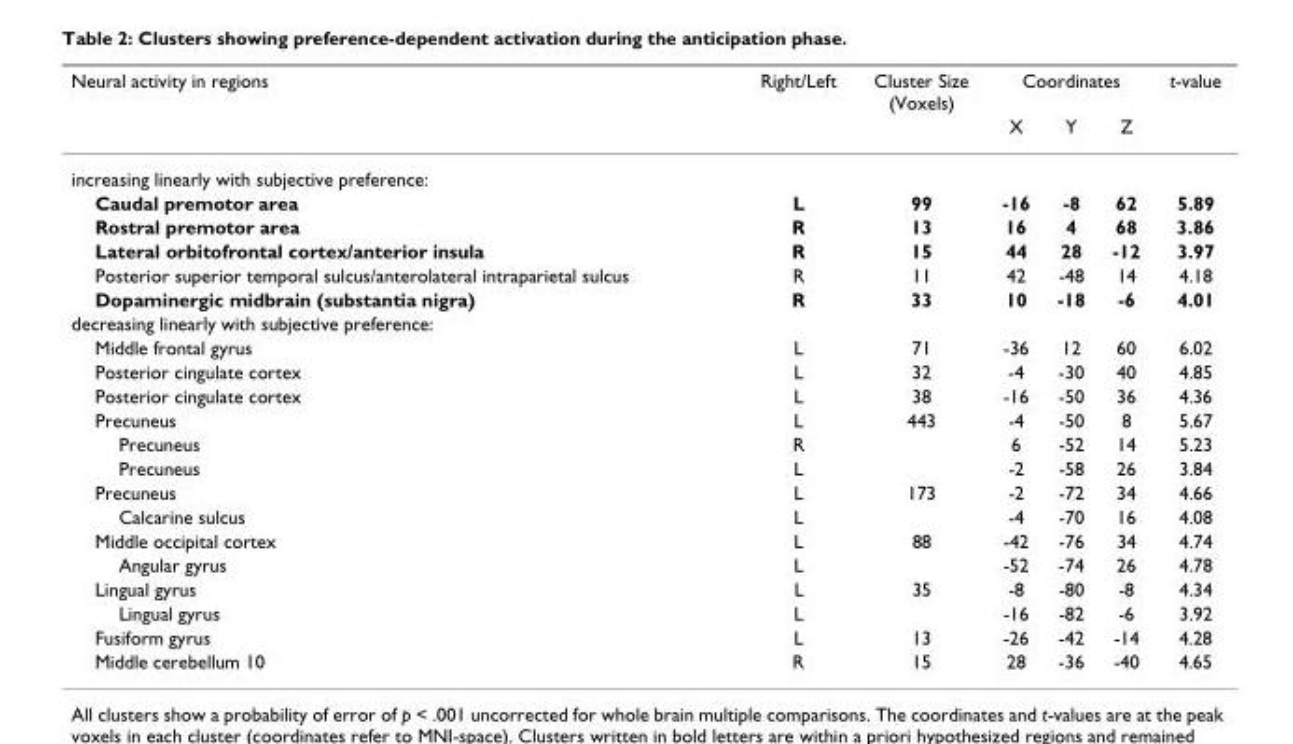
<table><thead><tr><td rowspan="2">Neural activity in regions</td><td rowspan="2">Right/Left</td><td rowspan="2">Cluster Size (Voxels)</td><td colspan="3">Coordinates</td><td rowspan="2">t-value</td></tr><tr><td>X</td><td>Y</td><td>Z</td></tr></thead><tbody><tr><td colspan="7">increasing linearly with subjective preference:</td></tr><tr><td>Caudal premotor area</td><td>L</td><td>99</td><td>-16</td><td>-8</td><td>62</td><td>5.89</td></tr><tr><td>Rostral premotor area</td><td>R</td><td>13</td><td>16</td><td>4</td><td>68</td><td>3.86</td></tr><tr><td>Lateral orbitofrontal cortex/anterior insula</td><td>R</td><td>15</td><td>44</td><td>28</td><td>-12</td><td>3.97</td></tr><tr><td>Posterior superior temporal sulcus/anterolateral intraparietal sulcus</td><td>R</td><td>11</td><td>42</td><td>-48</td><td>14</td><td>4.18</td></tr><tr><td>Dopaminergic midbrain (substantia nigra)</td><td>R</td><td>33</td><td>10</td><td>-18</td><td>-6</td><td>4.01</td></tr><tr><td colspan="7">decreasing linearly with subjective preference:</td></tr><tr><td>Middle frontal gyrus</td><td>L</td><td>71</td><td>-36</td><td>12</td><td>60</td><td>6.02</td></tr><tr><td>Posterior cingulate cortex</td><td>L</td><td>32</td><td>-4</td><td>-30</td><td>40</td><td>4.85</td></tr><tr><td>Posterior cingulate cortex</td><td>L</td><td>38</td><td>-16</td><td>-50</td><td>36</td><td>4.36</td></tr><tr><td>Precuneus</td><td>L</td><td>443</td><td>-4</td><td>-50</td><td>8</td><td>5.67</td></tr><tr><td>Precuneus</td><td>R</td><td></td><td>6</td><td>-52</td><td>14</td><td>5.23</td></tr><tr><td>Precuneus</td><td>L</td><td></td><td>-2</td><td>-58</td><td>26</td><td>3.84</td></tr><tr><td>Precuneus</td><td>L</td><td>173</td><td>-2</td><td>-72</td><td>34</td><td>4.66</td></tr><tr><td>Calcarine sulcus</td><td>L</td><td></td><td>-4</td><td>-70</td><td>16</td><td>4.08</td></tr><tr><td>Middle occipital cortex</td><td>L</td><td>88</td><td>-42</td><td>-76</td><td>34</td><td>4.74</td></tr><tr><td>Angular gyrus</td><td>L</td><td></td><td>-52</td><td>-74</td><td>26</td><td>4.78</td></tr><tr><td>Lingual gyrus</td><td>L</td><td>35</td><td>-8</td><td>-80</td><td>-8</td><td>4.34</td></tr><tr><td>Lingual gyrus</td><td>L</td><td></td><td>-16</td><td>-82</td><td>-6</td><td>3.92</td></tr><tr><td>Fusiform gyrus</td><td>L</td><td>13</td><td>-26</td><td>-42</td><td>-14</td><td>4.28</td></tr><tr><td>Middle cerebellum 10</td><td>R</td><td>15</td><td>28</td><td>-36</td><td>-40</td><td>4.65</td></tr></tbody></table>